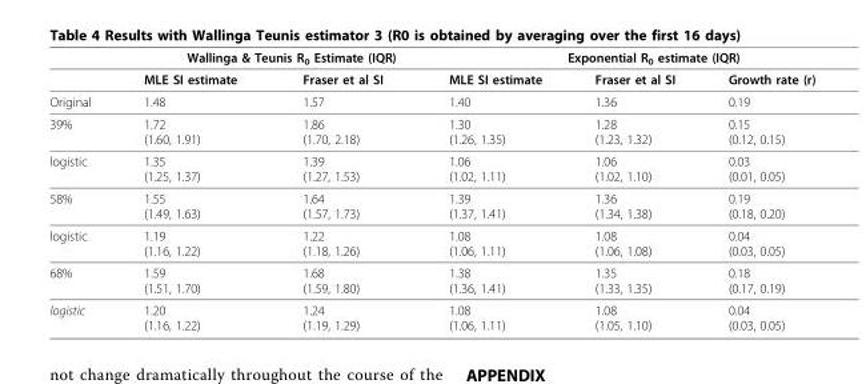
<table><thead><tr><td rowspan="2"></td><td colspan="2">Wallinga &amp; Teunis R0 Estimate (IQR)</td><td colspan="3">Exponential R0 estimate (IQR)</td></tr><tr><td>MLE SI estimate</td><td>Fraser et al SI</td><td>MLE SI estimate</td><td>Fraser et al SI</td><td>Growth rate (r)</td></tr></thead><tbody><tr><td>Original</td><td>1.48</td><td>1.57</td><td>1.40</td><td>1.36</td><td>0.19</td></tr><tr><td>39%</td><td>1.72 (1.60, 1.91)</td><td>1.86 (1.70, 2.18)</td><td>1.30 (1.26, 1.35)</td><td>1.28 (1.23, 1.32)</td><td>0.15 (0.12, 0.15)</td></tr><tr><td>logistic</td><td>1.35 (1.25, 1.37)</td><td>1.39 (1.27, 1.53)</td><td>1.06 (1.02, 1.11)</td><td>1.06 (1.02, 1.10)</td><td>0.03 (0.01, 0.05)</td></tr><tr><td>58%</td><td>1.55 (1.49, 1.63)</td><td>1.64 (1.57, 1.73)</td><td>1.39 (1.37, 1.41)</td><td>1.36 (1.34, 1.38)</td><td>0.19 (0.18, 0.20)</td></tr><tr><td>logistic</td><td>1.19 (1.16, 1.22)</td><td>1.22 (1.18, 1.26)</td><td>1.08 (1.06, 1.11)</td><td>1.08 (1.06, 1.08)</td><td>0.04 (0.03, 0.05)</td></tr><tr><td>68%</td><td>1.59 (1.51, 1.70)</td><td>1.68 (1.59, 1.80)</td><td>1.38 (1.36, 1.41)</td><td>1.35 (1.33, 1.35)</td><td>0.18 (0.17, 0.19)</td></tr><tr><td>logistic</td><td>1.20 (1.16, 1.22)</td><td>1.24 (1.19, 1.29)</td><td>1.08 (1.06, 1.11)</td><td>1.08 (1.05, 1.10)</td><td>0.04 (0.03, 0.05)</td></tr></tbody></table>